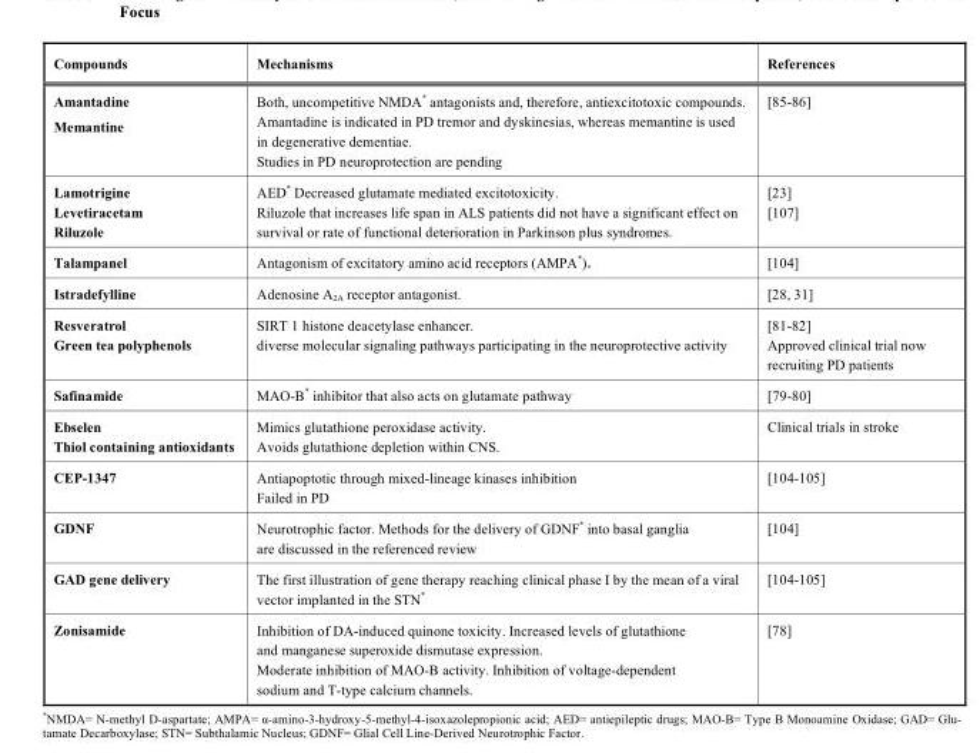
<table><thead><tr><td>Compounds</td><td>Mechanisms</td><td>References</td></tr></thead><tbody><tr><td>Amantadine Memantine</td><td>Both, uncompetitive NMDA* antagonists and, therefore, antiexcitotoxic compounds. Amantadine is indicated in PD tremor and dyskinesias, whereas memantine is used in degenerative dementiae. Studies in PD neuroprotection are pending</td><td>[85-86]</td></tr><tr><td>Lamotrigine Levetiracetam Riluzole</td><td>AED* Decreased glutamate mediated excitotoxicity. Riluzole that increases life span in ALS patients did not have a significant effect on survival or rate of functional deterioration in Parkinson plus syndromes.</td><td>[23] [107]</td></tr><tr><td>Talampanel</td><td>Antagonism of excitatory amino acid receptors (AMPA*).</td><td>[104]</td></tr><tr><td>Istradefylline</td><td>Adenosine A<sub>2A</sub> receptor antagonist.</td><td>[28, 31]</td></tr><tr><td>Resveratrol Green tea polyphenols</td><td>SIRT 1 histone deacetylase enhancer. diverse molecular signaling pathways participating in the neuroprotective activity</td><td>[81-82] Approved clinical trial now recruiting PD patients</td></tr><tr><td>Safinamide</td><td>MAO-B* inhibitor that also acts on glutamate pathway</td><td>[79-80]</td></tr><tr><td>Ebselen Thiol containing antioxidants</td><td>Mimics glutathione peroxidase activity. Avoids glutathione depletion within CNS.</td><td>Clinical trials in stroke</td></tr><tr><td>CEP-1347</td><td>Antiapoptotic through mixed-lineage kinases inhibition Failed in PD</td><td>[104-105]</td></tr><tr><td>GDNF</td><td>Neurotrophic factor. Methods for the delivery of GDNF* into basal ganglia are discussed in the referenced review</td><td>[104]</td></tr><tr><td>GAD gene delivery</td><td>The first illustration of gene therapy reaching clinical phase I by the mean of a viral vector implanted in the STN*</td><td>[104-105]</td></tr><tr><td>Zonisamide</td><td>Inhibition of DA-induced quinone toxicity. Increased levels of glutathione and manganese superoxide dismutase expression. Moderate inhibition of MAO-B activity. Inhibition of voltage-dependent sodium and T-type calcium channels.</td><td>[78]</td></tr></tbody></table>